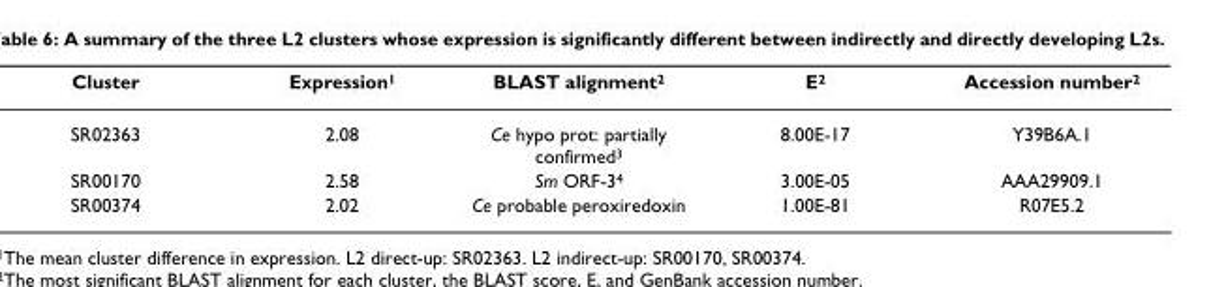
<table><thead><tr><td>Cluster</td><td>Expression1</td><td>BLAST alignment2</td><td>E2</td><td>Accession number2</td></tr></thead><tbody><tr><td>SR02363</td><td>2.08</td><td>Ce hypo prot: partially confirmed3</td><td>8.00E-17</td><td>Y39B6A.1</td></tr><tr><td>SR00170</td><td>2.58</td><td>Sm ORF-34</td><td>3.00E-05</td><td>AAA29909.1</td></tr><tr><td>SR00374</td><td>2.02</td><td>Ce probable peroxiredoxin</td><td>1.00E-81</td><td>R07E5.2</td></tr></tbody></table>